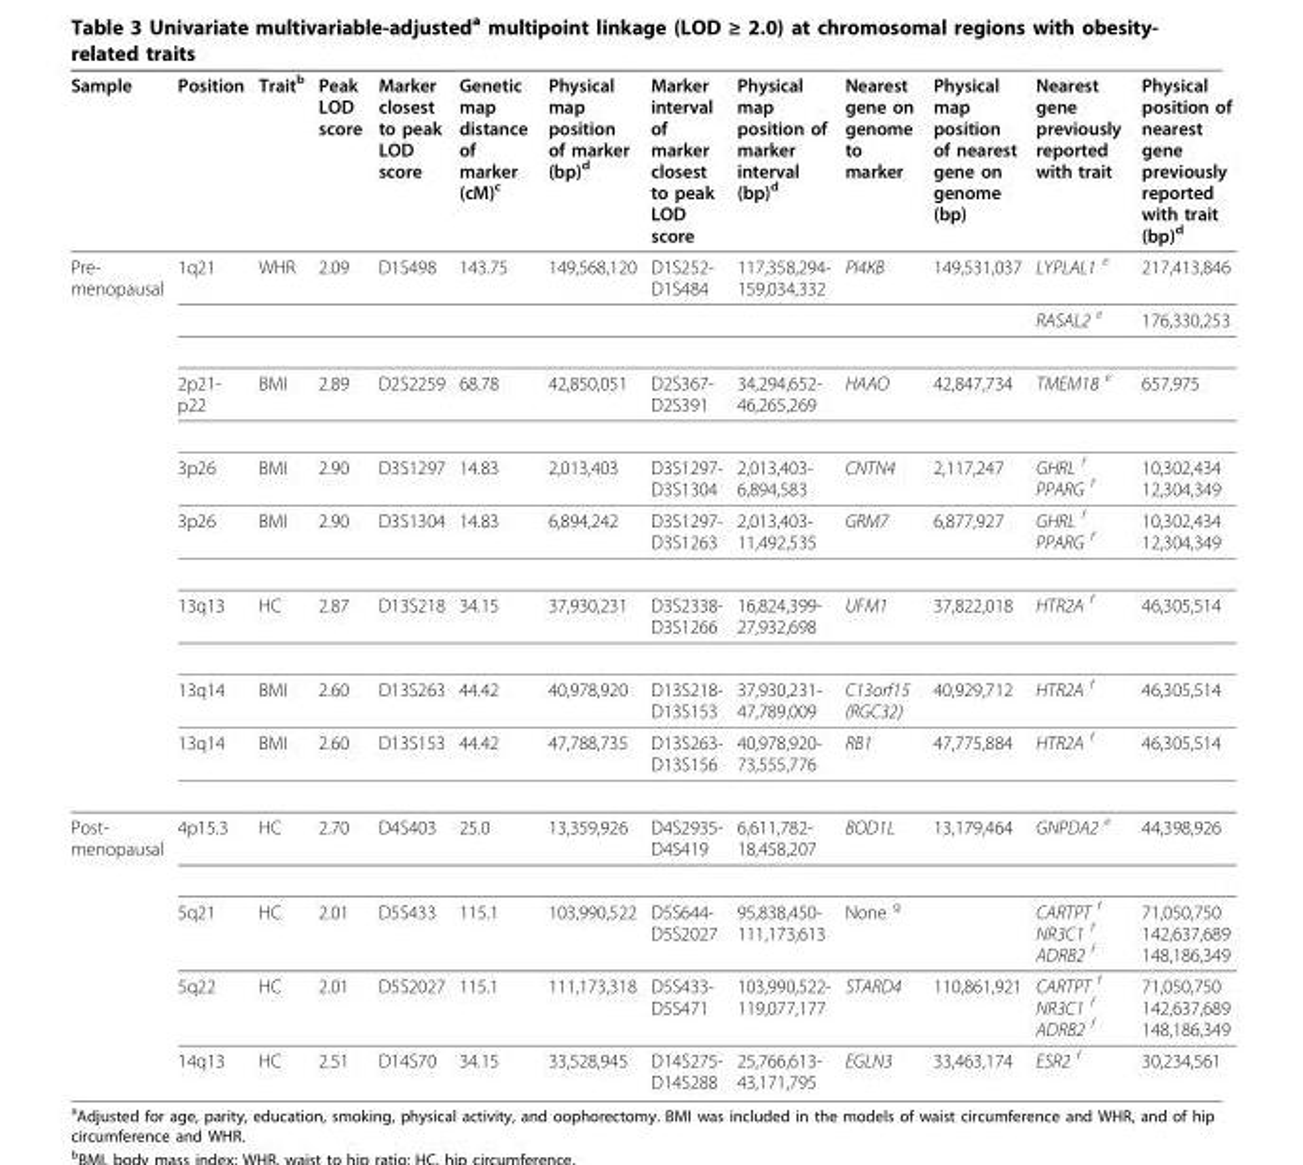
<table><thead><tr><td>Sample</td><td>Position</td><td>Trait<sup>b</sup></td><td>Peak LOD score</td><td>Marker closest to peak LOD score</td><td>Genetic map distance of marker (cM)<sup>c</sup></td><td>Physical map position of marker (bp)<sup>d</sup></td><td>Marker interval of marker closest to peak LOD score</td><td>Physical map position of marker interval (bp)<sup>d</sup></td><td>Nearest gene on genome to marker</td><td>Physical map position of nearest gene on genome (bp)</td><td>Nearest gene previously reported with trait</td><td>Physical position of nearest gene previously reported with trait (bp)<sup>d</sup></td></tr></thead><tbody><tr><td rowspan="8">Pre- menopausal</td><td>1q21</td><td>WHR</td><td>2.09</td><td>D1S498</td><td>143.75</td><td>149,568,120</td><td>D1S252- D1S484</td><td>117,358,294- 159,034,332</td><td>PI4KB</td><td>149,531,037</td><td>LYPLAL1 <sup>e</sup></td><td>217,413,846</td></tr><tr><td></td><td></td><td></td><td></td><td></td><td></td><td></td><td></td><td></td><td></td><td>RASAL2 <sup>e</sup></td><td>176,330,253</td></tr><tr><td>2p21- p22</td><td>BMI</td><td>2.89</td><td>D2S2259</td><td>68.78</td><td>42,850,051</td><td>D2S367- D2S391</td><td>34,294,652- 46,265,269</td><td>HAAO</td><td>42,847,734</td><td>TMEM18 <sup>e</sup></td><td>657,975</td></tr><tr><td>3p26</td><td>BMI</td><td>2.90</td><td>D3S1297</td><td>14.83</td><td>2,013,403</td><td>D3S1297- D3S1304</td><td>2,013,403- 6,894,583</td><td>CNTN4</td><td>2,117,247</td><td>GHRL <sup>f</sup> PPARG <sup>f</sup></td><td>10,302,434 12,304,349</td></tr><tr><td>3p26</td><td>BMI</td><td>2.90</td><td>D3S1304</td><td>14.83</td><td>6,894,242</td><td>D3S1297- D3S1263</td><td>2,013,403- 11,492,535</td><td>GRM7</td><td>6,877,927</td><td>GHRL <sup>f</sup> PPARG <sup>f</sup></td><td>10,302,434 12,304,349</td></tr><tr><td>13q13</td><td>HC</td><td>2.87</td><td>D13S218</td><td>34.15</td><td>37,930,231</td><td>D3S2338- D3S1266</td><td>16,824,399- 27,932,698</td><td>UFM1</td><td>37,822,018</td><td>HTR2A <sup>f</sup></td><td>46,305,514</td></tr><tr><td>13q14</td><td>BMI</td><td>2.60</td><td>D13S263</td><td>44.42</td><td>40,978,920</td><td>D13S218- D13S153</td><td>37,930,231- 47,789,009</td><td>C13orf15 (RGC32)</td><td>40,929,712</td><td>HTR2A <sup>f</sup></td><td>46,305,514</td></tr><tr><td>13q14</td><td>BMI</td><td>2.60</td><td>D13S153</td><td>44.42</td><td>47,788,735</td><td>D13S263- D13S156</td><td>40,978,920- 73,555,776</td><td>RB1</td><td>47,775,884</td><td>HTR2A <sup>f</sup></td><td>46,305,514</td></tr><tr><td rowspan="4">Post- menopausal</td><td>4p15.3</td><td>HC</td><td>2.70</td><td>D4S403</td><td>25.0</td><td>13,359,926</td><td>D4S2935- D4S419</td><td>6,611,782- 18,458,207</td><td>BOD1L</td><td>13,179,464</td><td>GNPDA2 <sup>e</sup></td><td>44,398,926</td></tr><tr><td>5q21</td><td>HC</td><td>2.01</td><td>D5S433</td><td>115.1</td><td>103,990,522</td><td>D5S644- D5S2027</td><td>95,838,450- 111,173,613</td><td>None <sup>g</sup></td><td></td><td>CARTPT <sup>f</sup> NR3C1 <sup>f</sup> ADRB2 <sup>f</sup></td><td>71,050,750 142,637,689 148,186,349</td></tr><tr><td>5q22</td><td>HC</td><td>2.01</td><td>D5S2027</td><td>115.1</td><td>111,173,318</td><td>D5S433- D5S471</td><td>103,990,522- 119,077,177</td><td>STARD4</td><td>110,861,921</td><td>CARTPT <sup>f</sup> NR3C1 <sup>f</sup> ADRB2 <sup>f</sup></td><td>71,050,750 142,637,689 148,186,349</td></tr><tr><td>14q13</td><td>HC</td><td>2.51</td><td>D14S70</td><td>34.15</td><td>33,528,945</td><td>D14S275- D14S288</td><td>25,766,613- 43,171,795</td><td>EGLN3</td><td>33,463,174</td><td>ESR2 <sup>f</sup></td><td>30,234,561</td></tr></tbody></table>